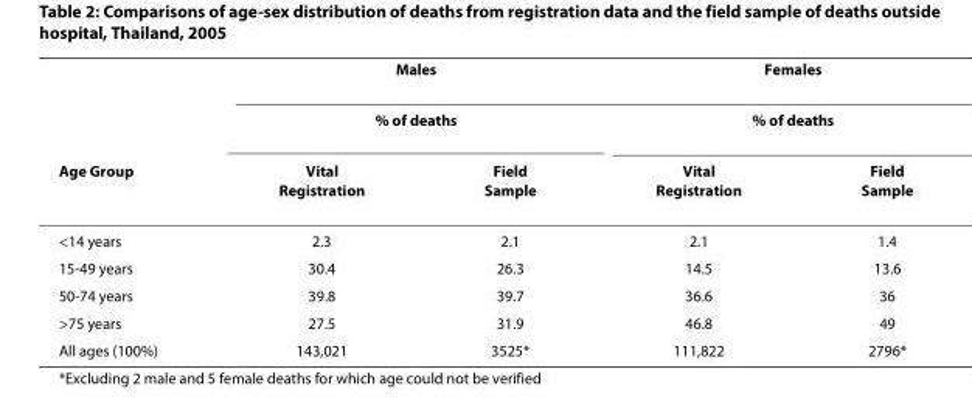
<table><thead><tr><td rowspan="3">Age Group</td><td rowspan="2" colspan="2">Males % of deaths</td><td rowspan="2" colspan="2">Females % of deaths</td></tr><tr></tr><tr><td>Vital Registration</td><td>Field Sample</td><td>Vital Registration</td><td>Field Sample</td></tr></thead><tbody><tr><td>&lt;14 years</td><td>2.3</td><td>2.1</td><td>2.1</td><td>1.4</td></tr><tr><td>15-49 years</td><td>30.4</td><td>26.3</td><td>14.5</td><td>13.6</td></tr><tr><td>50-74 years</td><td>39.8</td><td>39.7</td><td>36.6</td><td>36</td></tr><tr><td>&gt;75 years</td><td>27.5</td><td>31.9</td><td>46.8</td><td>49</td></tr><tr><td>All ages (100%)</td><td>143,021</td><td>3525*</td><td>111,822</td><td>2796*</td></tr></tbody></table>